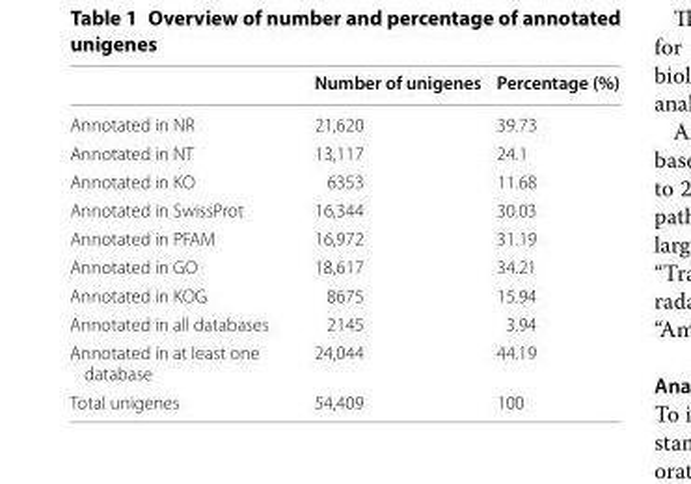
<table><thead><tr><td></td><td>Number of unigenes</td><td>Percentage (%)</td></tr></thead><tbody><tr><td>Annotated in NR</td><td>21,620</td><td>39.73</td></tr><tr><td>Annotated in NT</td><td>13,117</td><td>24.1</td></tr><tr><td>Annotated in KO</td><td>6353</td><td>11.68</td></tr><tr><td>Annotated in SwissProt</td><td>16,344</td><td>30.03</td></tr><tr><td>Annotated in PFAM</td><td>16,972</td><td>31.19</td></tr><tr><td>Annotated in GO</td><td>18,617</td><td>34.21</td></tr><tr><td>Annotated in KOG</td><td>8675</td><td>15.94</td></tr><tr><td>Annotated in all databases</td><td>2145</td><td>3.94</td></tr><tr><td>Annotated in at least one database</td><td>24,044</td><td>44.19</td></tr><tr><td>Total unigenes</td><td>54,409</td><td>100</td></tr></tbody></table>